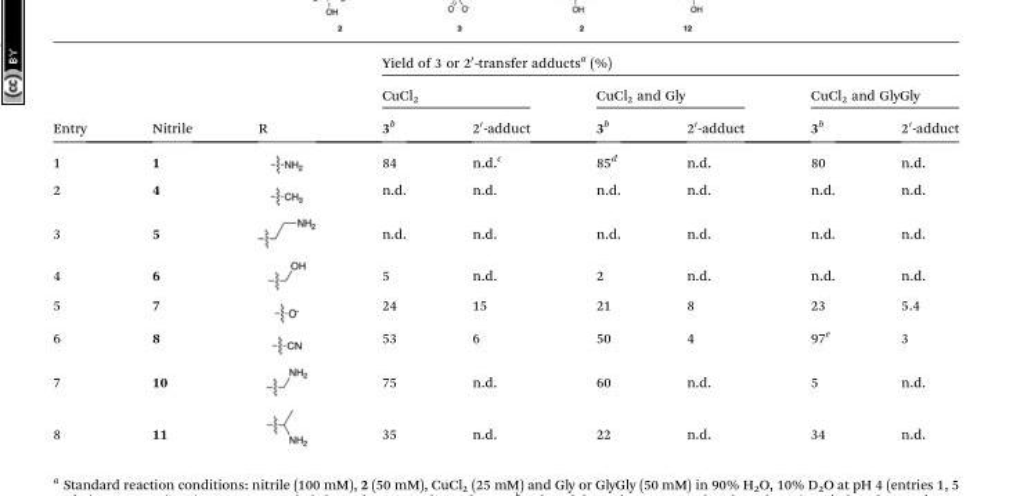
<table><thead><tr><td rowspan="3">Entry</td><td rowspan="3">Nitrile</td><td rowspan="3">R</td><td colspan="6">Yield of 3 or 2′-transfer adducts<sup>a</sup> (%)</td></tr><tr><td colspan="2">CuCl<sub>2</sub></td><td colspan="2">CuCl<sub>2</sub> and Gly</td><td colspan="2">CuCl<sub>2</sub> and GlyGly</td></tr><tr><td>3<sup>b</sup></td><td>2′-adduct</td><td>3<sup>b</sup></td><td>2′-adduct</td><td>3<sup>b</sup></td><td>2′-adduct</td></tr></thead><tbody><tr><td>1</td><td>1</td><td></td><td>84</td><td>n.d.<sup>c</sup></td><td>85<sup>d</sup></td><td>n.d.</td><td>80</td><td>n.d.</td></tr><tr><td>2</td><td>4</td><td></td><td>n.d.</td><td>n.d.</td><td>n.d.</td><td>n.d.</td><td>n.d.</td><td>n.d.</td></tr><tr><td>3</td><td>5</td><td></td><td>n.d.</td><td>n.d.</td><td>n.d.</td><td>n.d.</td><td>n.d.</td><td>n.d.</td></tr><tr><td>4</td><td>6</td><td></td><td>5</td><td>n.d.</td><td>2</td><td>n.d.</td><td>n.d.</td><td>n.d.</td></tr><tr><td>5</td><td>7</td><td></td><td>24</td><td>15</td><td>21</td><td>8</td><td>23</td><td>5.4</td></tr><tr><td>6</td><td>8</td><td></td><td>53</td><td>6</td><td>50</td><td>4</td><td>97<sup>e</sup></td><td>3</td></tr><tr><td>7</td><td>10</td><td></td><td>75</td><td>n.d.</td><td>60</td><td>n.d.</td><td>5</td><td>n.d.</td></tr><tr><td>8</td><td>11</td><td></td><td>35</td><td>n.d.</td><td>22</td><td>n.d.</td><td>34</td><td>n.d.</td></tr></tbody></table>